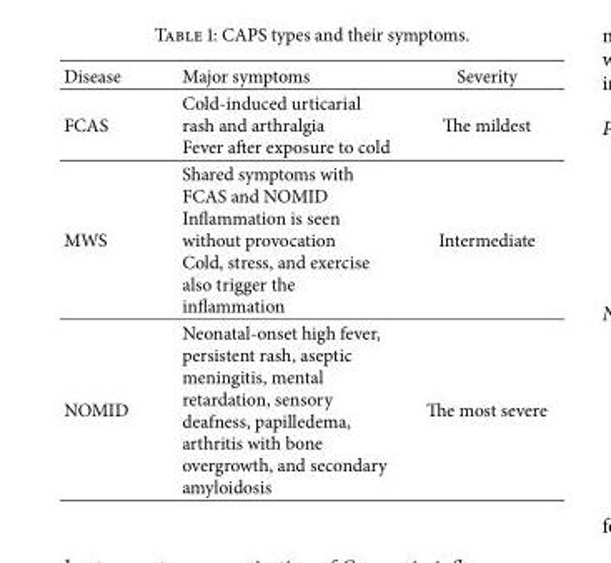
<table><thead><tr><td>Disease</td><td>Major symptoms</td><td>Severity</td></tr></thead><tbody><tr><td>FCAS</td><td>Cold-induced urticarial rash and arthralgia Fever after exposure to cold</td><td>The mildest</td></tr><tr><td>MWS</td><td>Shared symptoms with FCAS and NOMID Inflammation is seen without provocation Cold, stress, and exercise also trigger the inflammation</td><td>Intermediate</td></tr><tr><td>NOMID</td><td>Neonatal-onset high fever, persistent rash, aseptic meningitis, mental retardation, sensory deafness, papilledema, arthritis with bone overgrowth, and secondary amyloidosis</td><td>The most severe</td></tr></tbody></table>